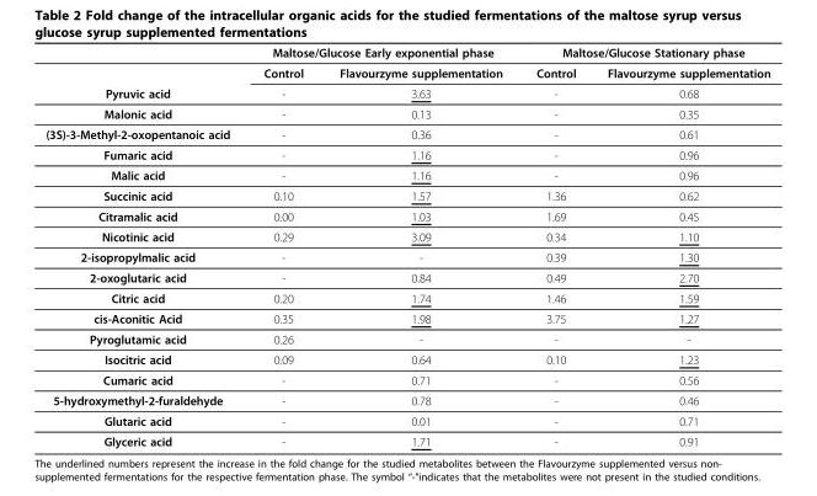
<table><thead><tr><td rowspan="2"></td><td colspan="2">Maltose/Glucose Early exponential phase</td><td colspan="2">Maltose/Glucose Stationary phase</td></tr><tr><td>Control</td><td>Flavourzyme supplementation</td><td>Control</td><td>Flavourzyme supplementation</td></tr></thead><tbody><tr><td>Pyruvic acid</td><td>-</td><td>3.63</td><td>-</td><td>0.68</td></tr><tr><td>Malonic acid</td><td>-</td><td>0.13</td><td>-</td><td>0.35</td></tr><tr><td>(3S)-3-Methyl-2-oxopentanoic acid</td><td>-</td><td>0.36</td><td>-</td><td>0.61</td></tr><tr><td>Fumaric acid</td><td>-</td><td>1.16</td><td>-</td><td>0.96</td></tr><tr><td>Malic acid</td><td>-</td><td>1.16</td><td>-</td><td>0.96</td></tr><tr><td>Succinic acid</td><td>0.10</td><td>1.57</td><td>1.36</td><td>0.62</td></tr><tr><td>Citramalic acid</td><td>0.00</td><td>1.03</td><td>1.69</td><td>0.45</td></tr><tr><td>Nicotinic acid</td><td>0.29</td><td>3.09</td><td>0.34</td><td>1.10</td></tr><tr><td>2-isopropylmalic acid</td><td>-</td><td>-</td><td>0.39</td><td>1.30</td></tr><tr><td>2-oxoglutaric acid</td><td>-</td><td>0.84</td><td>0.49</td><td>2.70</td></tr><tr><td>Citric acid</td><td>0.20</td><td>1.74</td><td>1.46</td><td>1.59</td></tr><tr><td>cis-Aconitic Acid</td><td>0.35</td><td>1.98</td><td>3.75</td><td>1.27</td></tr><tr><td>Pyroglutamic acid</td><td>0.26</td><td>-</td><td>-</td><td>-</td></tr><tr><td>Isocitric acid</td><td>0.09</td><td>0.64</td><td>0.10</td><td>1.23</td></tr><tr><td>Cumaric acid</td><td>-</td><td>0.71</td><td>-</td><td>0.56</td></tr><tr><td>5-hydroxymethyl-2-furaldehyde</td><td>-</td><td>0.78</td><td>-</td><td>0.46</td></tr><tr><td>Glutaric acid</td><td>-</td><td>0.01</td><td>-</td><td>0.71</td></tr><tr><td>Glyceric acid</td><td>-</td><td>1.71</td><td>-</td><td>0.91</td></tr></tbody></table>